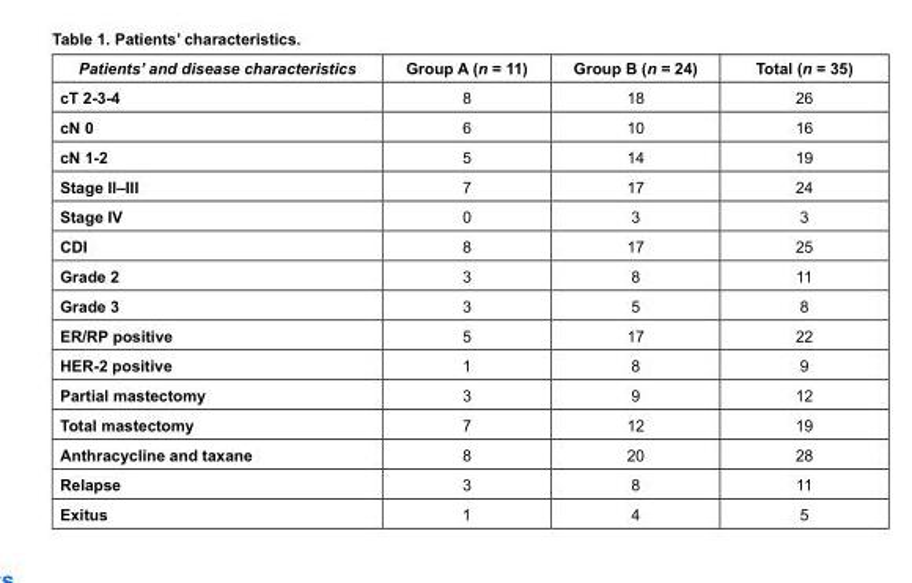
<table><thead><tr><td>Patients’ and disease characteristics</td><td>Group A (n = 11)</td><td>Group B (n = 24)</td><td>Total (n = 35)</td></tr></thead><tbody><tr><td>cT 2-3-4</td><td>8</td><td>18</td><td>26</td></tr><tr><td>cN 0</td><td>6</td><td>10</td><td>16</td></tr><tr><td>cN 1-2</td><td>5</td><td>14</td><td>19</td></tr><tr><td>Stage II–III</td><td>7</td><td>17</td><td>24</td></tr><tr><td>Stage IV</td><td>0</td><td>3</td><td>3</td></tr><tr><td>CDI</td><td>8</td><td>17</td><td>25</td></tr><tr><td>Grade 2</td><td>3</td><td>8</td><td>11</td></tr><tr><td>Grade 3</td><td>3</td><td>5</td><td>8</td></tr><tr><td>ER/RP positive</td><td>5</td><td>17</td><td>22</td></tr><tr><td>HER-2 positive</td><td>1</td><td>8</td><td>9</td></tr><tr><td>Partial mastectomy</td><td>3</td><td>9</td><td>12</td></tr><tr><td>Total mastectomy</td><td>7</td><td>12</td><td>19</td></tr><tr><td>Anthracycline and taxane</td><td>8</td><td>20</td><td>28</td></tr><tr><td>Relapse</td><td>3</td><td>8</td><td>11</td></tr><tr><td>Exitus</td><td>1</td><td>4</td><td>5</td></tr></tbody></table>